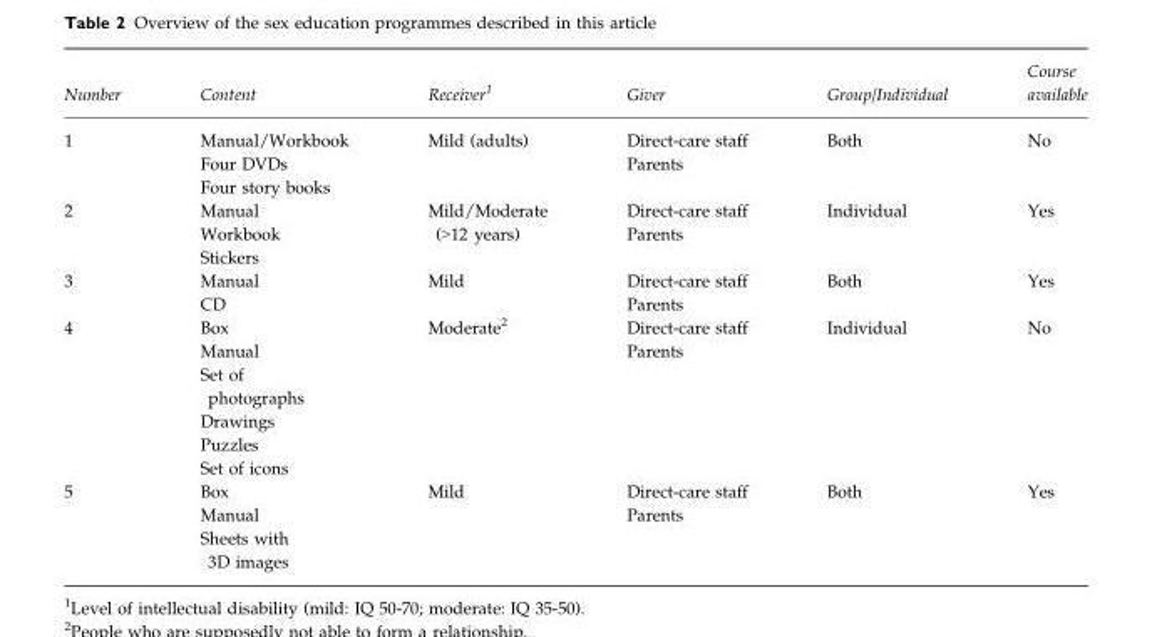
<table><thead><tr><td>Number</td><td>Content</td><td>Receiver<sup>1</sup></td><td>Giver</td><td>Group/Individual</td><td>Course available</td></tr></thead><tbody><tr><td>1</td><td>Manual/Workbook Four DVDs Four story books</td><td>Mild (adults)</td><td>Direct-care staff Parents</td><td>Both</td><td>No</td></tr><tr><td>2</td><td>Manual Workbook Stickers</td><td>Mild/Moderate (&gt;12 years)</td><td>Direct-care staff Parents</td><td>Individual</td><td>Yes</td></tr><tr><td>3</td><td>Manual CD</td><td>Mild</td><td>Direct-care staff Parents</td><td>Both</td><td>Yes</td></tr><tr><td>4</td><td>Box Manual Set of photographs Drawings Puzzles Set of icons</td><td>Moderate<sup>2</sup></td><td>Direct-care staff Parents</td><td>Individual</td><td>No</td></tr><tr><td>5</td><td>Box Manual Sheets with 3D images</td><td>Mild</td><td>Direct-care staff Parents</td><td>Both</td><td>Yes</td></tr></tbody></table>